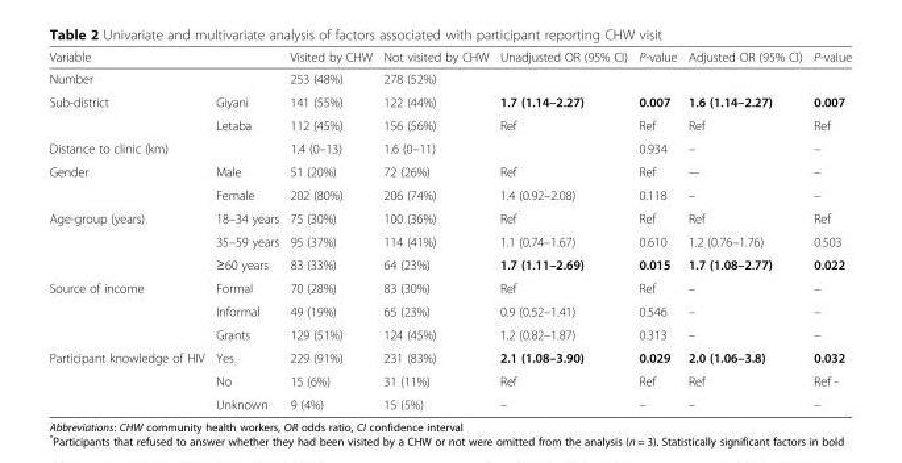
<table><thead><tr><td>Variable</td><td></td><td>Visited by CHW</td><td>Not visited by CHW</td><td>Unadjusted OR (95% CI)</td><td>P-value</td><td>Adjusted OR (95% CI)</td><td>P-value</td></tr></thead><tbody><tr><td>Number</td><td></td><td>253 (48%)</td><td>278 (52%)</td><td></td><td></td><td></td><td></td></tr><tr><td rowspan="2">Sub-district</td><td>Giyani</td><td>141 (55%)</td><td>122 (44%)</td><td>1.7 (1.14–2.27)</td><td>0.007</td><td>1.6 (1.14–2.27)</td><td>0.007</td></tr><tr><td>Letaba</td><td>112 (45%)</td><td>156 (56%)</td><td>Ref</td><td>Ref</td><td>Ref</td><td>Ref</td></tr><tr><td>Distance to clinic (km)</td><td></td><td>1.4 (0–13)</td><td>1.6 (0–11)</td><td></td><td>0.934</td><td>–</td><td>–</td></tr><tr><td rowspan="2">Gender</td><td>Male</td><td>51 (20%)</td><td>72 (26%)</td><td>Ref</td><td>Ref</td><td>–-</td><td>–</td></tr><tr><td>Female</td><td>202 (80%)</td><td>206 (74%)</td><td>1.4 (0.92–2.08)</td><td>0.118</td><td>–</td><td>–</td></tr><tr><td rowspan="3">Age-group (years)</td><td>18–34 years</td><td>75 (30%)</td><td>100 (36%)</td><td>Ref</td><td>Ref</td><td>Ref</td><td>Ref</td></tr><tr><td>35–59 years</td><td>95 (37%)</td><td>114 (41%)</td><td>1.1 (0.74–1.67)</td><td>0.610</td><td>1.2 (0.76–1.76)</td><td>0.503</td></tr><tr><td>≥60 years</td><td>83 (33%)</td><td>64 (23%)</td><td>1.7 (1.11–2.69)</td><td>0.015</td><td>1.7 (1.08–2.77)</td><td>0.022</td></tr><tr><td rowspan="3">Source of income</td><td>Formal</td><td>70 (28%)</td><td>83 (30%)</td><td>Ref</td><td>Ref</td><td>–</td><td>–</td></tr><tr><td>Informal</td><td>49 (19%)</td><td>65 (23%)</td><td>0.9 (0.52–1.41)</td><td>0.546</td><td>–</td><td>–</td></tr><tr><td>Grants</td><td>129 (51%)</td><td>124 (45%)</td><td>1.2 (0.82–1.87)</td><td>0.313</td><td>–</td><td>–</td></tr><tr><td rowspan="3">Participant knowledge of HIV</td><td>Yes</td><td>229 (91%)</td><td>231 (83%)</td><td>2.1 (1.08–3.90)</td><td>0.029</td><td>2.0 (1.06–3.8)</td><td>0.032</td></tr><tr><td>No</td><td>15 (6%)</td><td>31 (11%)</td><td>Ref</td><td>Ref</td><td>Ref</td><td>Ref -</td></tr><tr><td>Unknown</td><td>9 (4%)</td><td>15 (5%)</td><td>–</td><td>–</td><td>–</td><td>–</td></tr></tbody></table>